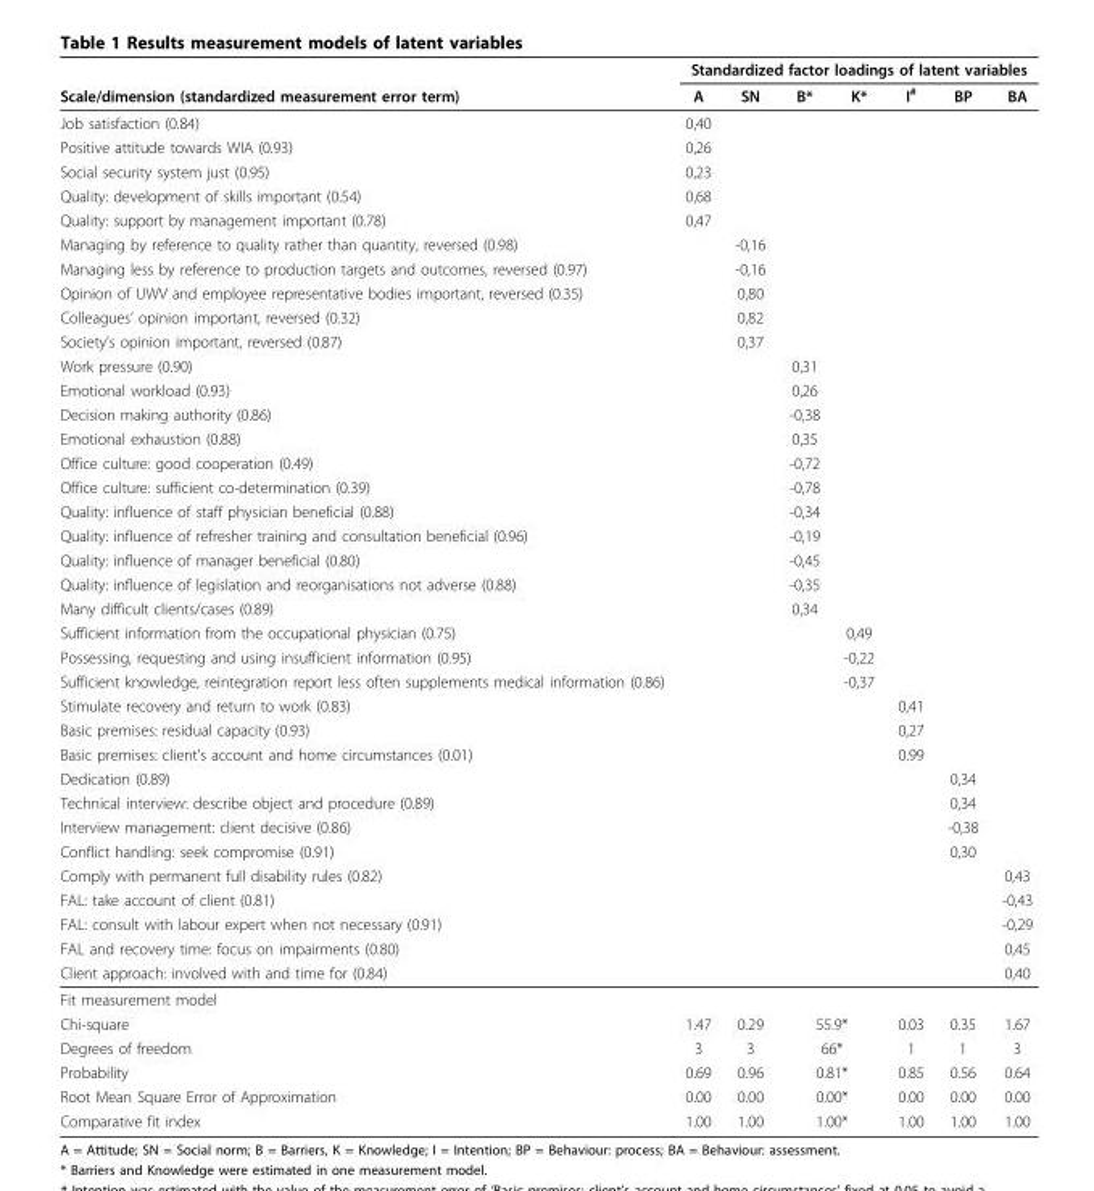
<table><thead><tr><td rowspan="2">Scale/dimension (standardized measurement error term)</td><td colspan="7">Standardized factor loadings of latent variables</td></tr><tr><td>A</td><td>SN</td><td>B*</td><td>K*</td><td>I<sup>#</sup></td><td>BP</td><td>BA</td></tr></thead><tbody><tr><td>Job satisfaction (0.84)</td><td>0,40</td><td></td><td></td><td></td><td></td><td></td><td></td></tr><tr><td>Positive attitude towards WIA (0.93)</td><td>0,26</td><td></td><td></td><td></td><td></td><td></td><td></td></tr><tr><td>Social security system just (0.95)</td><td>0,23</td><td></td><td></td><td></td><td></td><td></td><td></td></tr><tr><td>Quality: development of skills important (0.54)</td><td>0,68</td><td></td><td></td><td></td><td></td><td></td><td></td></tr><tr><td>Quality: support by management important (0.78)</td><td>0,47</td><td></td><td></td><td></td><td></td><td></td><td></td></tr><tr><td>Managing by reference to quality rather than quantity, reversed (0.98)</td><td></td><td>-0,16</td><td></td><td></td><td></td><td></td><td></td></tr><tr><td>Managing less by reference to production targets and outcomes, reversed (0.97)</td><td></td><td>-0,16</td><td></td><td></td><td></td><td></td><td></td></tr><tr><td>Opinion of UWV and employee representative bodies important, reversed (0.35)</td><td></td><td>0,80</td><td></td><td></td><td></td><td></td><td></td></tr><tr><td>Colleagues’ opinion important, reversed (0.32)</td><td></td><td>0,82</td><td></td><td></td><td></td><td></td><td></td></tr><tr><td>Society’s opinion important, reversed (0.87)</td><td></td><td>0,37</td><td></td><td></td><td></td><td></td><td></td></tr><tr><td>Work pressure (0.90)</td><td></td><td></td><td>0,31</td><td></td><td></td><td></td><td></td></tr><tr><td>Emotional workload (0.93)</td><td></td><td></td><td>0,26</td><td></td><td></td><td></td><td></td></tr><tr><td>Decision making authority (0.86)</td><td></td><td></td><td>-0,38</td><td></td><td></td><td></td><td></td></tr><tr><td>Emotional exhaustion (0.88)</td><td></td><td></td><td>0,35</td><td></td><td></td><td></td><td></td></tr><tr><td>Office culture: good cooperation (0.49)</td><td></td><td></td><td>-0,72</td><td></td><td></td><td></td><td></td></tr><tr><td>Office culture: sufficient co-determination (0.39)</td><td></td><td></td><td>-0,78</td><td></td><td></td><td></td><td></td></tr><tr><td>Quality: influence of staff physician beneficial (0.88)</td><td></td><td></td><td>-0,34</td><td></td><td></td><td></td><td></td></tr><tr><td>Quality: influence of refresher training and consultation beneficial (0.96)</td><td></td><td></td><td>-0,19</td><td></td><td></td><td></td><td></td></tr><tr><td>Quality: influence of manager beneficial (0.80)</td><td></td><td></td><td>-0,45</td><td></td><td></td><td></td><td></td></tr><tr><td>Quality: influence of legislation and reorganisations not adverse (0.88)</td><td></td><td></td><td>-0,35</td><td></td><td></td><td></td><td></td></tr><tr><td>Many difficult clients/cases (0.89)</td><td></td><td></td><td>0,34</td><td></td><td></td><td></td><td></td></tr><tr><td>Sufficient information from the occupational physician (0.75)</td><td></td><td></td><td></td><td>0,49</td><td></td><td></td><td></td></tr><tr><td>Possessing, requesting and using insufficient information (0.95)</td><td></td><td></td><td></td><td>-0,22</td><td></td><td></td><td></td></tr><tr><td>Sufficient knowledge, reintegration report less often supplements medical information (0.86)</td><td></td><td></td><td></td><td>-0,37</td><td></td><td></td><td></td></tr><tr><td>Stimulate recovery and return to work (0.83)</td><td></td><td></td><td></td><td></td><td>0,41</td><td></td><td></td></tr><tr><td>Basic premises: residual capacity (0.93)</td><td></td><td></td><td></td><td></td><td>0,27</td><td></td><td></td></tr><tr><td>Basic premises: client’s account and home circumstances (0.01)</td><td></td><td></td><td></td><td></td><td>0.99</td><td></td><td></td></tr><tr><td>Dedication (0.89)</td><td></td><td></td><td></td><td></td><td></td><td>0,34</td><td></td></tr><tr><td>Technical interview: describe object and procedure (0.89)</td><td></td><td></td><td></td><td></td><td></td><td>0,34</td><td></td></tr><tr><td>Interview management: client decisive (0.86)</td><td></td><td></td><td></td><td></td><td></td><td>-0,38</td><td></td></tr><tr><td>Conflict handling: seek compromise (0.91)</td><td></td><td></td><td></td><td></td><td></td><td>0,30</td><td></td></tr><tr><td>Comply with permanent full disability rules (0.82)</td><td></td><td></td><td></td><td></td><td></td><td></td><td>0,43</td></tr><tr><td>FAL: take account of client (0.81)</td><td></td><td></td><td></td><td></td><td></td><td></td><td>-0,43</td></tr><tr><td>FAL: consult with labour expert when not necessary (0.91)</td><td></td><td></td><td></td><td></td><td></td><td></td><td>-0,29</td></tr><tr><td>FAL and recovery time: focus on impairments (0.80)</td><td></td><td></td><td></td><td></td><td></td><td></td><td>0,45</td></tr><tr><td>Client approach: involved with and time for (0.84)</td><td></td><td></td><td></td><td></td><td></td><td></td><td>0,40</td></tr><tr><td colspan="8">Fit measurement model</td></tr><tr><td>Chi-square</td><td>1.47</td><td>0.29</td><td colspan="2">55.9*</td><td>0.03</td><td>0.35</td><td>1.67</td></tr><tr><td>Degrees of freedom</td><td>3</td><td>3</td><td colspan="2">66*</td><td>1</td><td>1</td><td>3</td></tr><tr><td>Probability</td><td>0.69</td><td>0.96</td><td colspan="2">0.81*</td><td>0.85</td><td>0.56</td><td>0.64</td></tr><tr><td>Root Mean Square Error of Approximation</td><td>0.00</td><td>0.00</td><td colspan="2">0.00*</td><td>0.00</td><td>0.00</td><td>0.00</td></tr><tr><td>Comparative fit index</td><td>1.00</td><td>1.00</td><td colspan="2">1.00*</td><td>1.00</td><td>1.00</td><td>1.00</td></tr></tbody></table>